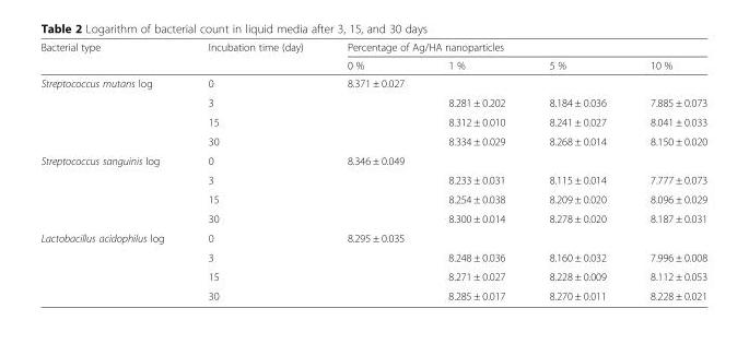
<table><thead><tr><td rowspan="2">Bacterial type</td><td rowspan="2">Incubation time (day)</td><td colspan="4">Percentage of Ag/HA nanoparticles</td></tr><tr><td>0 %</td><td>1 %</td><td>5 %</td><td>10 %</td></tr></thead><tbody><tr><td rowspan="4">Streptococcus mutans log</td><td>0</td><td>8.371 ± 0.027</td><td></td><td></td><td></td></tr><tr><td>3</td><td></td><td>8.281 ± 0.202</td><td>8.184 ± 0.036</td><td>7.885 ± 0.073</td></tr><tr><td>15</td><td></td><td>8.312 ± 0.010</td><td>8.241 ± 0.027</td><td>8.041 ± 0.033</td></tr><tr><td>30</td><td></td><td>8.334 ± 0.029</td><td>8.268 ± 0.014</td><td>8.150 ± 0.020</td></tr><tr><td rowspan="4">Streptococcus sanguinis log</td><td>0</td><td>8.346 ± 0.049</td><td></td><td></td><td></td></tr><tr><td>3</td><td></td><td>8.233 ± 0.031</td><td>8.115 ± 0.014</td><td>7.777 ± 0.073</td></tr><tr><td>15</td><td></td><td>8.254 ± 0.038</td><td>8.209 ± 0.020</td><td>8.096 ± 0.029</td></tr><tr><td>30</td><td></td><td>8.300 ± 0.014</td><td>8.278 ± 0.020</td><td>8.187 ± 0.031</td></tr><tr><td rowspan="4">Lactobacillus acidophilus log</td><td>0</td><td>8.295 ± 0.035</td><td></td><td></td><td></td></tr><tr><td>3</td><td></td><td>8.248 ± 0.036</td><td>8.160 ± 0.032</td><td>7.996 ± 0.008</td></tr><tr><td>15</td><td></td><td>8.271 ± 0.027</td><td>8.228 ± 0.009</td><td>8.112 ± 0.053</td></tr><tr><td>30</td><td></td><td>8.285 ± 0.017</td><td>8.270 ± 0.011</td><td>8.228 ± 0.021</td></tr></tbody></table>